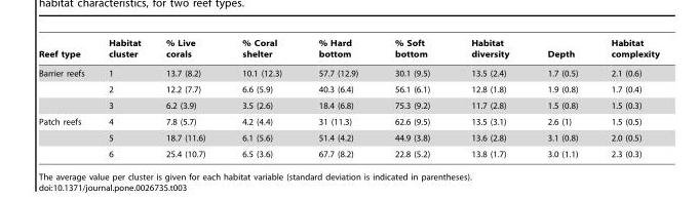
<table><thead><tr><td>Reef type</td><td>Habitat cluster</td><td>% Live corals</td><td>% Coral shelter</td><td>% Hard bottom</td><td>% Soft bottom</td><td>Habitat diversity</td><td>Depth</td><td>Habitat complexity</td></tr></thead><tbody><tr><td rowspan="3">Barrier reefs</td><td>1</td><td>13.7 (8.2)</td><td>10.1 (12.3)</td><td>57.7 (12.9)</td><td>30.1 (9.5)</td><td>13.5 (2.4)</td><td>1.7 (0.5)</td><td>2.1 (0.6)</td></tr><tr><td>2</td><td>12.2 (7.7)</td><td>6.6 (5.9)</td><td>40.3 (6.4)</td><td>56.1 (6.1)</td><td>12.8 (1.8)</td><td>1.9 (0.8)</td><td>1.7 (0.4)</td></tr><tr><td>3</td><td>6.2 (3.9)</td><td>3.5 (2.6)</td><td>18.4 (6.8)</td><td>75.3 (9.2)</td><td>11.7 (2.8)</td><td>1.5 (0.8)</td><td>1.5 (0.3)</td></tr><tr><td rowspan="3">Patch reefs</td><td>4</td><td>7.8 (5.7)</td><td>4.2 (4.4)</td><td>31 (11.3)</td><td>62.6 (9.5)</td><td>13.5 (3.1)</td><td>2.6 (1)</td><td>1.5 (0.5)</td></tr><tr><td>5</td><td>18.7 (11.6)</td><td>6.1 (5.6)</td><td>51.4 (4.2)</td><td>44.9 (3.8)</td><td>13.6 (2.8)</td><td>3.1 (0.8)</td><td>2.0 (0.5)</td></tr><tr><td>6</td><td>25.4 (10.7)</td><td>6.5 (3.6)</td><td>67.7 (8.2)</td><td>22.8 (5.2)</td><td>13.8 (1.7)</td><td>3.0 (1.1)</td><td>2.3 (0.3)</td></tr></tbody></table>